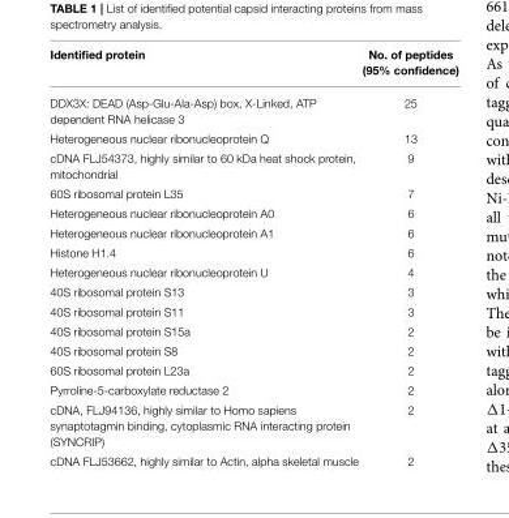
<table><thead><tr><td>Identified protein</td><td>No. of peptides (95% confidence)</td></tr></thead><tbody><tr><td>DDX3X: DEAD (Asp-Glu-Ala-Asp) box, X-Linked, ATP dependent RNA helicase 3</td><td>25</td></tr><tr><td>Heterogeneous nuclear ribonucleoprotein Q</td><td>13</td></tr><tr><td>cDNA FLJ54373, highly similar to 60 kDa heat shock protein, mitochondrial</td><td>9</td></tr><tr><td>60S ribosomal protein L35</td><td>7</td></tr><tr><td>Heterogeneous nuclear ribonucleoprotein A0</td><td>6</td></tr><tr><td>Heterogeneous nuclear ribonucleoprotein A1</td><td>6</td></tr><tr><td>Histone H1.4</td><td>6</td></tr><tr><td>Heterogeneous nuclear ribonucleoprotein U</td><td>4</td></tr><tr><td>40S ribosomal protein S13</td><td>3</td></tr><tr><td>40S ribosomal protein S11</td><td>3</td></tr><tr><td>40S ribosomal protein S15a</td><td>2</td></tr><tr><td>40S ribosomal protein S8</td><td>2</td></tr><tr><td>60S ribosomal protein L23a</td><td>2</td></tr><tr><td>Pyrroline-5-carboxylate reductase 2</td><td>2</td></tr><tr><td>cDNA, FLJ94136, highly similar to Homo sapiens synaptotagmin binding, cytoplasmic RNA interacting protein (SYNCRIP)</td><td>2</td></tr><tr><td>cDNA FLJ53662, highly similar to Actin, alpha skeletal muscle</td><td>2</td></tr></tbody></table>